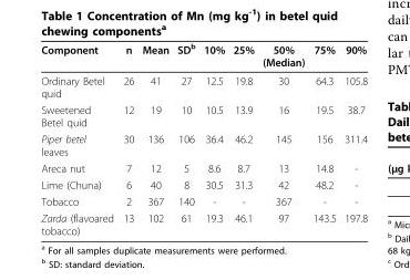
<table><thead><tr><td>Component</td><td>n</td><td>Mean</td><td>SD<sup>b</sup></td><td>10%</td><td>25%</td><td>50% (Median)</td><td>75%</td><td>90%</td></tr></thead><tbody><tr><td>Ordinary Betel quid</td><td>26</td><td>41</td><td>27</td><td>12.5</td><td>19.8</td><td>30</td><td>64.3</td><td>105.8</td></tr><tr><td>Sweetened Betel quid</td><td>12</td><td>19</td><td>10</td><td>10.5</td><td>13.9</td><td>16</td><td>19.5</td><td>38.7</td></tr><tr><td>Piper betel leaves</td><td>30</td><td>136</td><td>106</td><td>36.4</td><td>46.2</td><td>145</td><td>156</td><td>311.4</td></tr><tr><td>Areca nut</td><td>7</td><td>12</td><td>5</td><td>8.6</td><td>8.7</td><td>13</td><td>14.8</td><td>-</td></tr><tr><td>Lime (Chuna)</td><td>6</td><td>40</td><td>8</td><td>30.5</td><td>31.3</td><td>42</td><td>48.2</td><td>-</td></tr><tr><td>Tobacco</td><td>2</td><td>367</td><td>140</td><td>-</td><td>-</td><td>367</td><td>-</td><td>-</td></tr><tr><td>Zarda (flavoared tobacco)</td><td>13</td><td>102</td><td>61</td><td>19.3</td><td>46.1</td><td>97</td><td>143.5</td><td>197.8</td></tr></tbody></table>